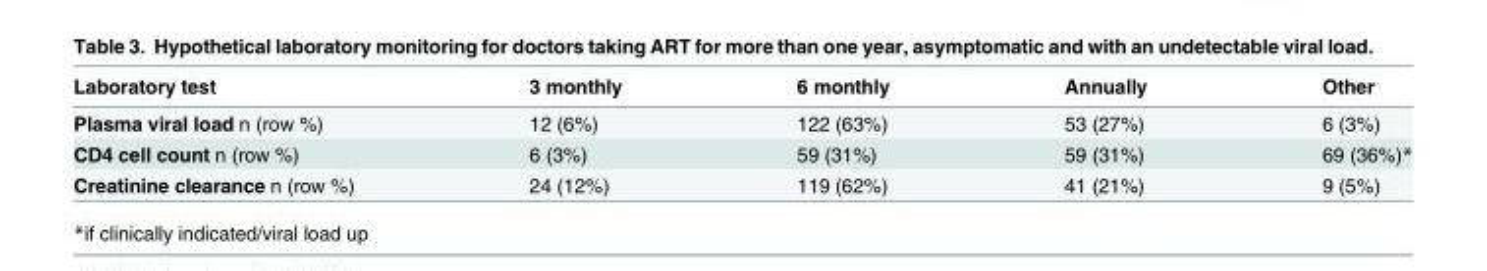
<table><thead><tr><td>Laboratory test</td><td>3 monthly</td><td>6 monthly</td><td>Annually</td><td>Other</td></tr></thead><tbody><tr><td>Plasma viral load n (row %)</td><td>12 (6%)</td><td>122 (63%)</td><td>53 (27%)</td><td>6 (3%)</td></tr><tr><td>CD4 cell count n (row %)</td><td>6 (3%)</td><td>59 (31%)</td><td>59 (31%)</td><td>69 (36%)*</td></tr><tr><td>Creatinine clearance n (row %)</td><td>24 (12%)</td><td>119 (62%)</td><td>41 (21%)</td><td>9 (5%)</td></tr></tbody></table>